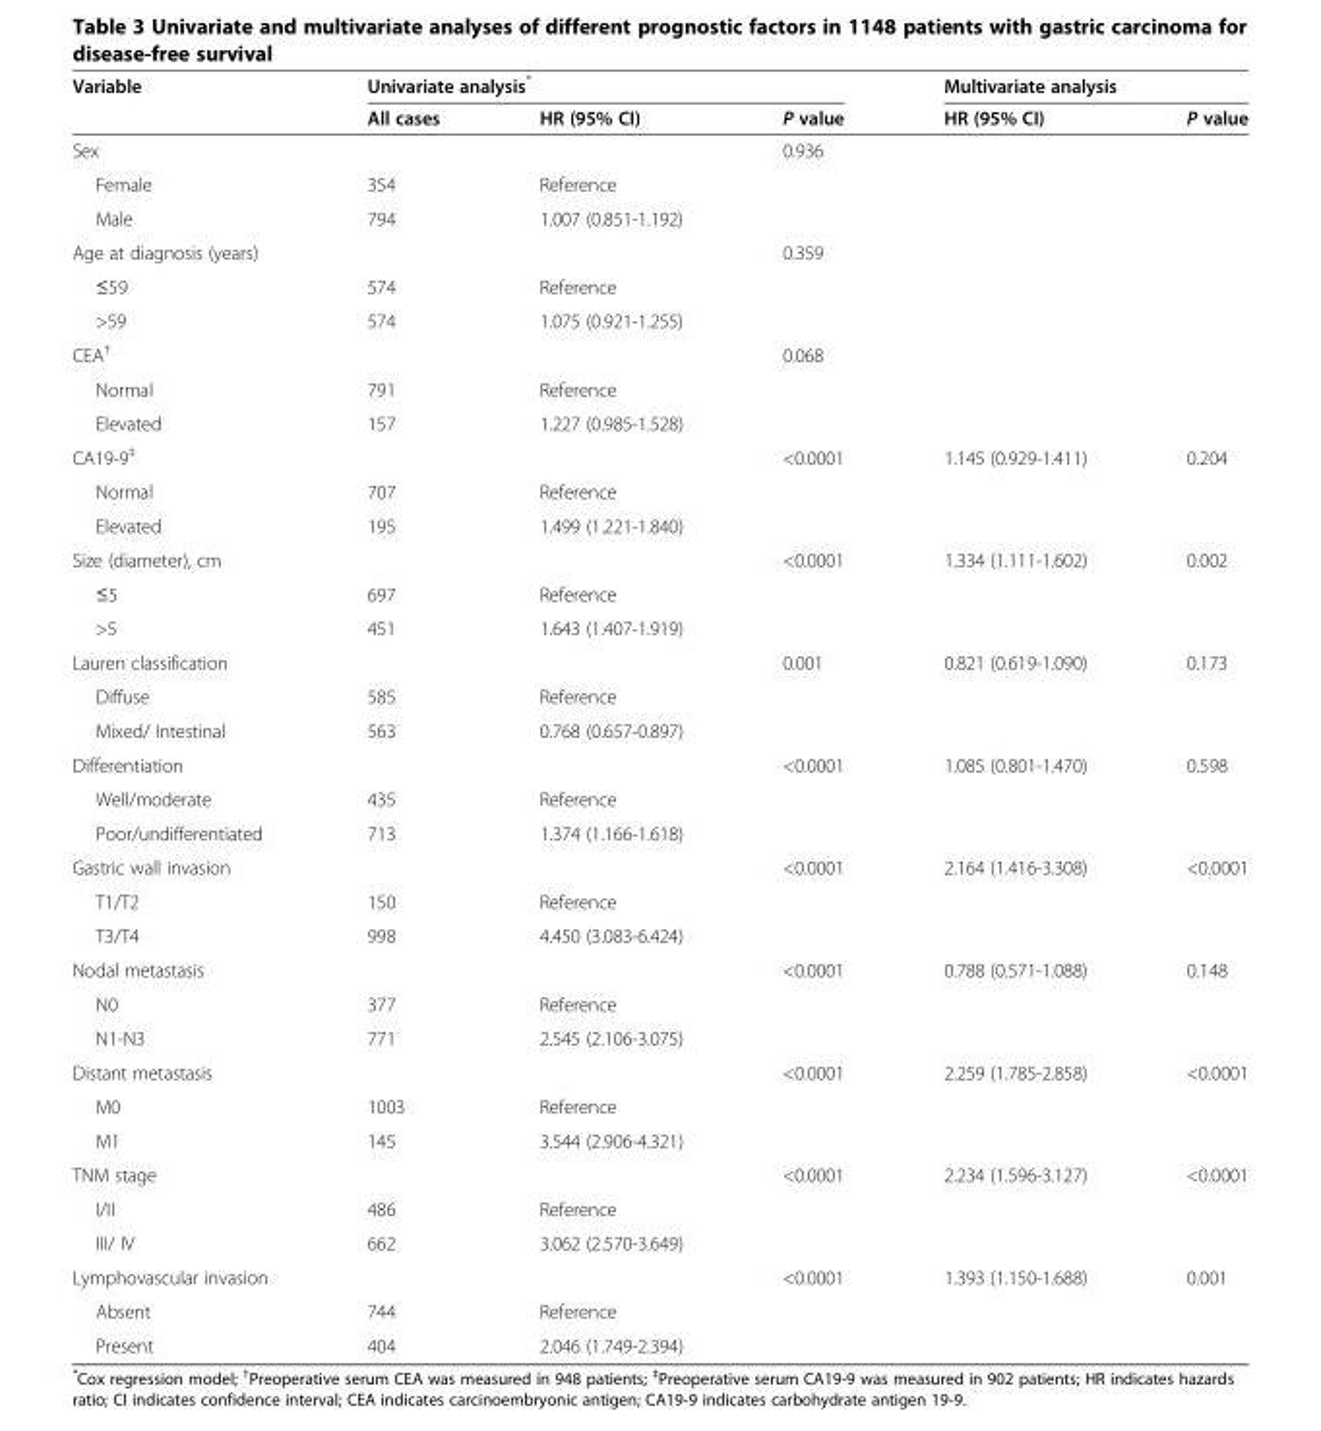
<table><thead><tr><td rowspan="2">Variable</td><td colspan="3">Univariate analysis*</td><td colspan="2">Multivariate analysis</td></tr><tr><td>All cases</td><td>HR (95% CI)</td><td>P value</td><td>HR (95% CI)</td><td>P value</td></tr></thead><tbody><tr><td>Sex</td><td></td><td></td><td>0.936</td><td></td><td></td></tr><tr><td>Female</td><td>354</td><td>Reference</td><td></td><td></td><td></td></tr><tr><td>Male</td><td>794</td><td>1.007 (0.851-1.192)</td><td></td><td></td><td></td></tr><tr><td>Age at diagnosis (years)</td><td></td><td></td><td>0.359</td><td></td><td></td></tr><tr><td>≤59</td><td>574</td><td>Reference</td><td></td><td></td><td></td></tr><tr><td>&gt;59</td><td>574</td><td>1.075 (0.921-1.255)</td><td></td><td></td><td></td></tr><tr><td>CEA<sup>†</sup></td><td></td><td></td><td>0.068</td><td></td><td></td></tr><tr><td>Normal</td><td>791</td><td>Reference</td><td></td><td></td><td></td></tr><tr><td>Elevated</td><td>157</td><td>1.227 (0.985-1.528)</td><td></td><td></td><td></td></tr><tr><td>CA19-9<sup>‡</sup></td><td></td><td></td><td>&lt;0.0001</td><td>1.145 (0.929-1.411)</td><td>0.204</td></tr><tr><td>Normal</td><td>707</td><td>Reference</td><td></td><td></td><td></td></tr><tr><td>Elevated</td><td>195</td><td>1.499 (1.221-1.840)</td><td></td><td></td><td></td></tr><tr><td>Size (diameter), cm</td><td></td><td></td><td>&lt;0.0001</td><td>1.334 (1.111-1.602)</td><td>0.002</td></tr><tr><td>≤5</td><td>697</td><td>Reference</td><td></td><td></td><td></td></tr><tr><td>&gt;5</td><td>451</td><td>1.643 (1.407-1.919)</td><td></td><td></td><td></td></tr><tr><td>Lauren classification</td><td></td><td></td><td>0.001</td><td>0.821 (0.619-1.090)</td><td>0.173</td></tr><tr><td>Diffuse</td><td>585</td><td>Reference</td><td></td><td></td><td></td></tr><tr><td>Mixed/ Intestinal</td><td>563</td><td>0.768 (0.657-0.897)</td><td></td><td></td><td></td></tr><tr><td>Differentiation</td><td></td><td></td><td>&lt;0.0001</td><td>1.085 (0.801-1.470)</td><td>0.598</td></tr><tr><td>Well/moderate</td><td>435</td><td>Reference</td><td></td><td></td><td></td></tr><tr><td>Poor/undifferentiated</td><td>713</td><td>1.374 (1.166-1.618)</td><td></td><td></td><td></td></tr><tr><td>Gastric wall invasion</td><td></td><td></td><td>&lt;0.0001</td><td>2.164 (1.416-3.308)</td><td>&lt;0.0001</td></tr><tr><td>T1/T2</td><td>150</td><td>Reference</td><td></td><td></td><td></td></tr><tr><td>T3/T4</td><td>998</td><td>4.450 (3.083-6.424)</td><td></td><td></td><td></td></tr><tr><td>Nodal metastasis</td><td></td><td></td><td>&lt;0.0001</td><td>0.788 (0.571-1.088)</td><td>0.148</td></tr><tr><td>N0</td><td>377</td><td>Reference</td><td></td><td></td><td></td></tr><tr><td>N1-N3</td><td>771</td><td>2.545 (2.106-3.075)</td><td></td><td></td><td></td></tr><tr><td>Distant metastasis</td><td></td><td></td><td>&lt;0.0001</td><td>2.259 (1.785-2.858)</td><td>&lt;0.0001</td></tr><tr><td>M0</td><td>1003</td><td>Reference</td><td></td><td></td><td></td></tr><tr><td>M1</td><td>145</td><td>3.544 (2.906-4.321)</td><td></td><td></td><td></td></tr><tr><td>TNM stage</td><td></td><td></td><td>&lt;0.0001</td><td>2.234 (1.596-3.127)</td><td>&lt;0.0001</td></tr><tr><td>I/II</td><td>486</td><td>Reference</td><td></td><td></td><td></td></tr><tr><td>III/ IV</td><td>662</td><td>3.062 (2.570-3.649)</td><td></td><td></td><td></td></tr><tr><td>Lymphovascular invasion</td><td></td><td></td><td>&lt;0.0001</td><td>1.393 (1.150-1.688)</td><td>0.001</td></tr><tr><td>Absent</td><td>744</td><td>Reference</td><td></td><td></td><td></td></tr><tr><td>Present</td><td>404</td><td>2.046 (1.749-2.394)</td><td></td><td></td><td></td></tr></tbody></table>